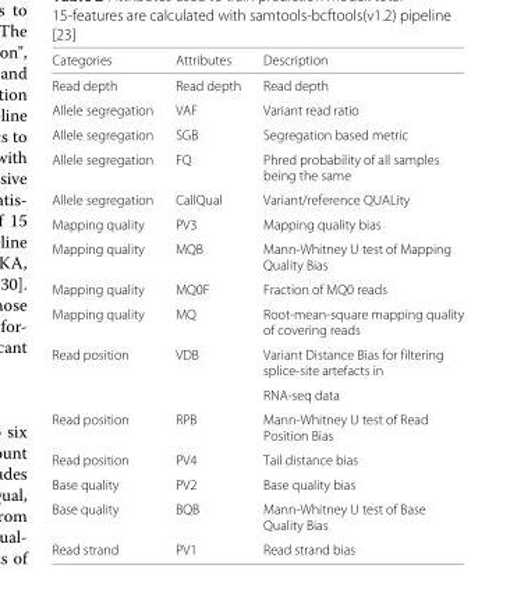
<table><thead><tr><td>Categories</td><td>Attributes</td><td>Description</td></tr></thead><tbody><tr><td>Read depth</td><td>Read depth</td><td>Read depth</td></tr><tr><td>Allele segregation</td><td>VAF</td><td>Variant read ratio</td></tr><tr><td>Allele segregation</td><td>SGB</td><td>Segregation based metric</td></tr><tr><td rowspan="2">Allele segregation</td><td>FQ</td><td>Phred probability of all samples</td></tr><tr><td></td><td>being the same</td></tr><tr><td>Allele segregation</td><td>CallQual</td><td>Variant/reference QUALity</td></tr><tr><td>Mapping quality</td><td>PV3</td><td>Mapping quality bias</td></tr><tr><td rowspan="2">Mapping quality</td><td>MQB</td><td>Mann-Whitney U test of Mapping</td></tr><tr><td></td><td>Quality Bias</td></tr><tr><td>Mapping quality</td><td>MQ0F</td><td>Fraction of MQ0 reads</td></tr><tr><td rowspan="2">Mapping quality</td><td>MQ</td><td>Root-mean-square mapping quality</td></tr><tr><td></td><td>of covering reads</td></tr><tr><td rowspan="3">Read position</td><td>VDB</td><td>Variant Distance Bias for filtering</td></tr><tr><td></td><td>splice-site artefacts in</td></tr><tr><td></td><td>RNA-seq data</td></tr><tr><td rowspan="2">Read position</td><td>RPB</td><td>Mann-Whitney U test of Read</td></tr><tr><td></td><td>Position Bias</td></tr><tr><td>Read position</td><td>PV4</td><td>Tail distance bias</td></tr><tr><td>Base quality</td><td>PV2</td><td>Base quality bias</td></tr><tr><td rowspan="2">Base quality</td><td>BQB</td><td>Mann-Whitney U test of Base</td></tr><tr><td></td><td>Quality Bias</td></tr><tr><td>Read strand</td><td>PV1</td><td>Read strand bias</td></tr></tbody></table>